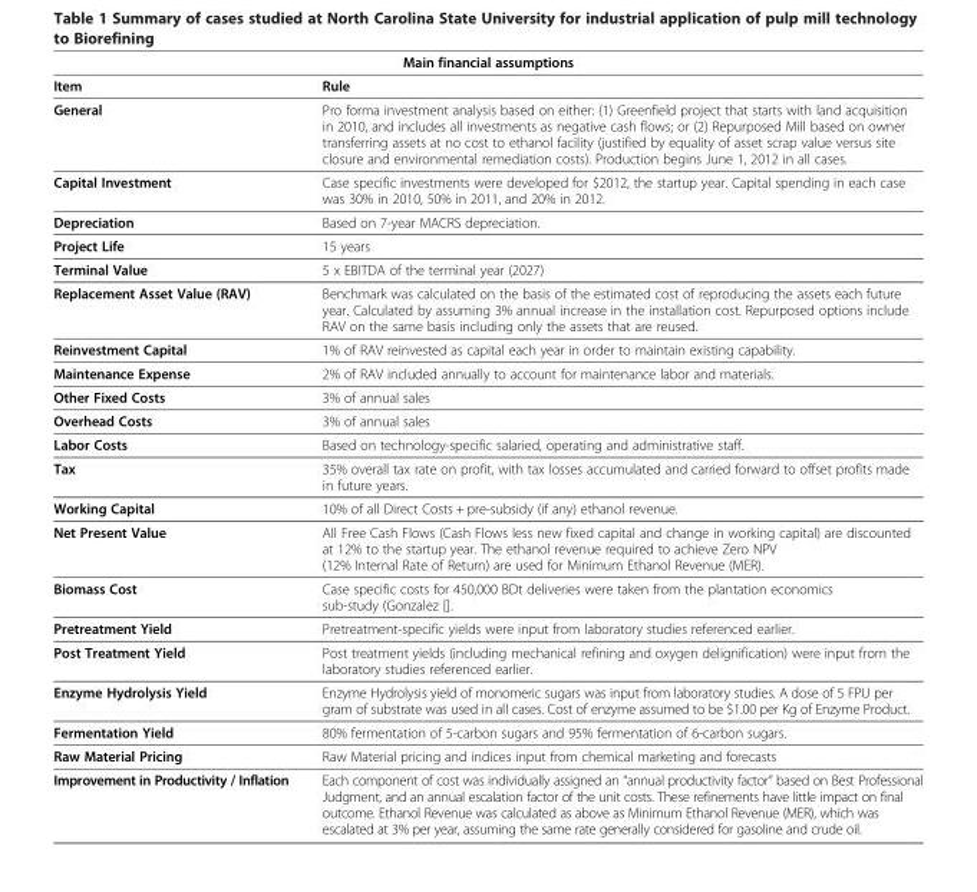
<table><thead><tr><td colspan="2">Main financial assumptions</td></tr><tr><td>Item</td><td>Rule</td></tr></thead><tbody><tr><td>General</td><td>Pro forma investment analysis based on either: (1) Greenfield project that starts with land acquisition in 2010, and includes all investments as negative cash flows; or (2) Repurposed Mill based on owner transferring assets at no cost to ethanol facility (justified by equality of asset scrap value versus site closure and environmental remediation costs). Production begins June 1, 2012 in all cases.</td></tr><tr><td>Capital Investment</td><td>Case specific investments were developed for $2012, the startup year. Capital spending in each case was 30% in 2010, 50% in 2011, and 20% in 2012.</td></tr><tr><td>Depreciation</td><td>Based on 7-year MACRS depreciation.</td></tr><tr><td>Project Life</td><td>15 years</td></tr><tr><td>Terminal Value</td><td>5 x EBITDA of the terminal year (2027)</td></tr><tr><td>Replacement Asset Value (RAV)</td><td>Benchmark was calculated on the basis of the estimated cost of reproducing the assets each future year. Calculated by assuming 3% annual increase in the installation cost. Repurposed options include RAV on the same basis including only the assets that are reused.</td></tr><tr><td>Reinvestment Capital</td><td>1% of RAV reinvested as capital each year in order to maintain existing capability.</td></tr><tr><td>Maintenance Expense</td><td>2% of RAV included annually to account for maintenance labor and materials.</td></tr><tr><td>Other Fixed Costs</td><td>3% of annual sales</td></tr><tr><td>Overhead Costs</td><td>3% of annual sales</td></tr><tr><td>Labor Costs</td><td>Based on technology-specific salaried, operating and administrative staff.</td></tr><tr><td>Tax</td><td>35% overall tax rate on profit, with tax losses accumulated and carried forward to offset profits made in future years.</td></tr><tr><td>Working Capital</td><td>10% of all Direct Costs + pre-subsidy (if any) ethanol revenue.</td></tr><tr><td>Net Present Value</td><td>All Free Cash Flows (Cash Flows less new fixed capital and change in working capital) are discounted at 12% to the startup year. The ethanol revenue required to achieve Zero NPV (12% Internal Rate of Return) are used for Minimum Ethanol Revenue (MER).</td></tr><tr><td>Biomass Cost</td><td>Case specific costs for 450,000 BDt deliveries were taken from the plantation economics sub-study (Gonzalez [].</td></tr><tr><td>Pretreatment Yield</td><td>Pretreatment-specific yields were input from laboratory studies referenced earlier.</td></tr><tr><td>Post Treatment Yield</td><td>Post treatment yields (including mechanical refining and oxygen delignification) were input from the laboratory studies referenced earlier.</td></tr><tr><td>Enzyme Hydrolysis Yield</td><td>Enzyme Hydrolysis yield of monomeric sugars was input from laboratory studies. A dose of 5 FPU per gram of substrate was used in all cases. Cost of enzyme assumed to be $1.00 per Kg of Enzyme Product.</td></tr><tr><td>Fermentation Yield</td><td>80% fermentation of 5-carbon sugars and 95% fermentation of 6-carbon sugars.</td></tr><tr><td>Raw Material Pricing</td><td>Raw Material pricing and indices input from chemical marketing and forecasts</td></tr><tr><td>Improvement in Productivity / Inflation</td><td>Each component of cost was individually assigned an “annual productivity factor” based on Best Professional Judgment, and an annual escalation factor of the unit costs. These refinements have little impact on final outcome. Ethanol Revenue was calculated as above as Minimum Ethanol Revenue (MER), which was escalated at 3% per year, assuming the same rate generally considered for gasoline and crude oil.</td></tr></tbody></table>